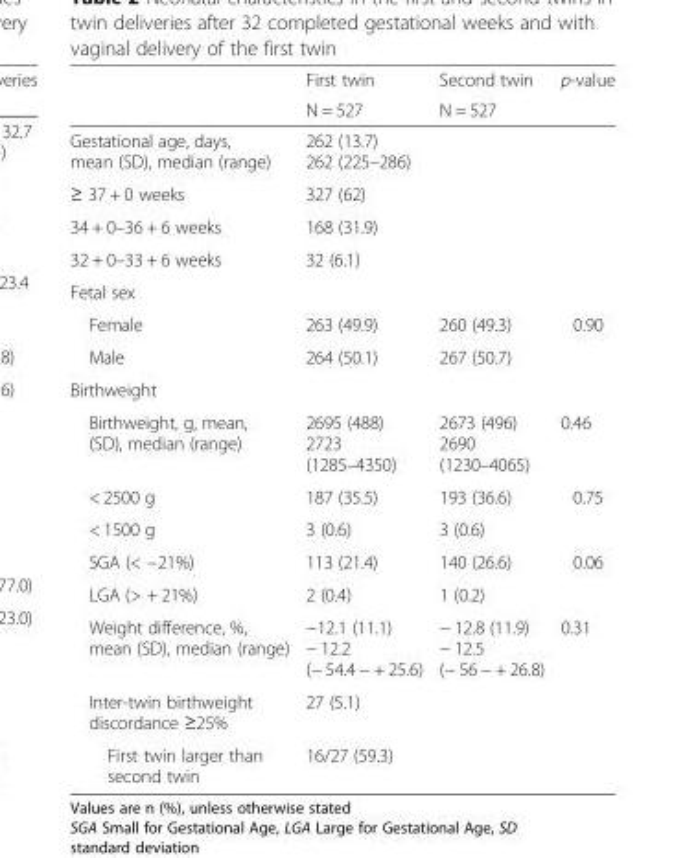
<table><thead><tr><td rowspan="2"></td><td rowspan="2">First twin N = 527</td><td rowspan="2">Second twin N = 527</td><td rowspan="2">p-value</td></tr><tr></tr></thead><tbody><tr><td>Gestational age, days, mean (SD), median (range)</td><td>262 (13.7) 262 (225–286)</td><td></td><td></td></tr><tr><td>≥ 37 + 0 weeks</td><td>327 (62)</td><td></td><td></td></tr><tr><td>34 + 0–36 + 6 weeks</td><td>168 (31.9)</td><td></td><td></td></tr><tr><td>32 + 0–33 + 6 weeks</td><td>32 (6.1)</td><td></td><td></td></tr><tr><td colspan="4">Fetal sex</td></tr><tr><td>Female</td><td>263 (49.9)</td><td>260 (49.3)</td><td>0.90</td></tr><tr><td>Male</td><td>264 (50.1)</td><td>267 (50.7)</td><td></td></tr><tr><td colspan="4">Birthweight</td></tr><tr><td>Birthweight, g, mean, (SD), median (range)</td><td>2695 (488) 2723 (1285–4350)</td><td>2673 (496) 2690 (1230–4065)</td><td>0.46</td></tr><tr><td>&lt; 2500 g</td><td>187 (35.5)</td><td>193 (36.6)</td><td>0.75</td></tr><tr><td>&lt; 1500 g</td><td>3 (0.6)</td><td>3 (0.6)</td><td></td></tr><tr><td>SGA (&lt; −21%)</td><td>113 (21.4)</td><td>140 (26.6)</td><td>0.06</td></tr><tr><td>LGA (&gt; + 21%)</td><td>2 (0.4)</td><td>1 (0.2)</td><td></td></tr><tr><td>Weight difference, %, mean (SD), median (range)</td><td>−12.1 (11.1) − 12.2 (− 54.4 − + 25.6)</td><td>− 12.8 (11.9) − 12.5 (− 56 − + 26.8)</td><td>0.31</td></tr><tr><td>Inter-twin birthweight discordance ≥25%</td><td>27 (5.1)</td><td></td><td></td></tr><tr><td>First twin larger than second twin</td><td>16/27 (59.3)</td><td></td><td></td></tr></tbody></table>